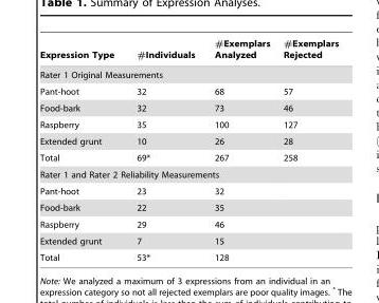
<table><thead><tr><td>Expression Type</td><td>#Individuals</td><td>#Exemplars Analyzed</td><td>#Exemplars Rejected</td></tr></thead><tbody><tr><td colspan="4">Rater 1 Original Measurements</td></tr><tr><td>Pant-hoot</td><td>32</td><td>68</td><td>57</td></tr><tr><td>Food-bark</td><td>32</td><td>73</td><td>46</td></tr><tr><td>Raspberry</td><td>35</td><td>100</td><td>127</td></tr><tr><td>Extended grunt</td><td>10</td><td>26</td><td>28</td></tr><tr><td>Total</td><td>69*</td><td>267</td><td>258</td></tr><tr><td colspan="4">Rater 1 and Rater 2 Reliability Measurements</td></tr><tr><td>Pant-hoot</td><td>23</td><td>32</td><td></td></tr><tr><td>Food-bark</td><td>22</td><td>35</td><td></td></tr><tr><td>Raspberry</td><td>29</td><td>46</td><td></td></tr><tr><td>Extended grunt</td><td>7</td><td>15</td><td></td></tr><tr><td>Total</td><td>53*</td><td>128</td><td></td></tr></tbody></table>